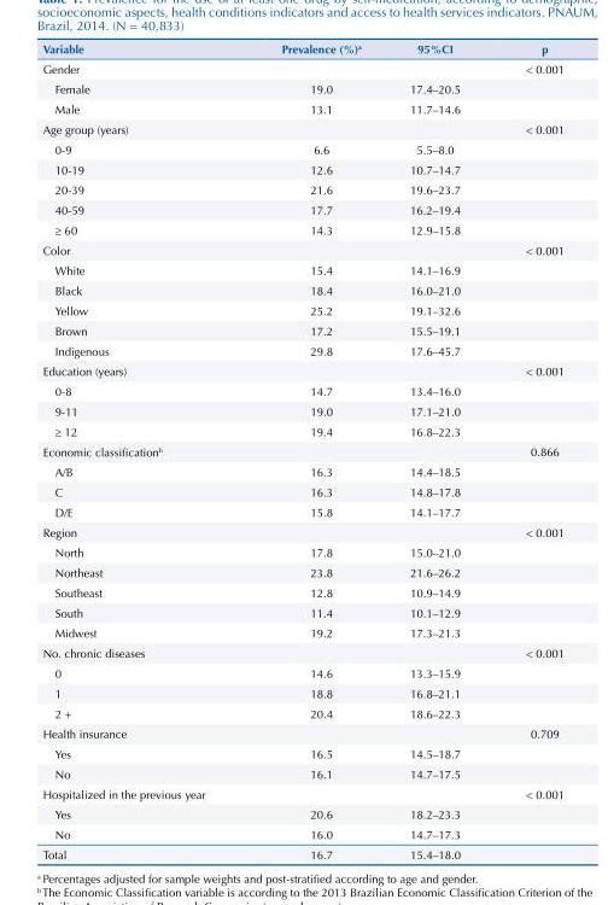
<table><thead><tr><td>Variable</td><td>Prevalence (%)<sup>a</sup></td><td>95%CI</td><td>p</td></tr></thead><tbody><tr><td>Gender</td><td></td><td></td><td>&lt; 0.001</td></tr><tr><td>Female</td><td>19.0</td><td>17.4–20.5</td><td></td></tr><tr><td>Male</td><td>13.1</td><td>11.7–14.6</td><td></td></tr><tr><td>Age group (years)</td><td></td><td></td><td>&lt; 0.001</td></tr><tr><td>0-9</td><td>6.6</td><td>5.5–8.0</td><td></td></tr><tr><td>10-19</td><td>12.6</td><td>10.7–14.7</td><td></td></tr><tr><td>20-39</td><td>21.6</td><td>19.6–23.7</td><td></td></tr><tr><td>40-59</td><td>17.7</td><td>16.2–19.4</td><td></td></tr><tr><td>≥ 60</td><td>14.3</td><td>12.9–15.8</td><td></td></tr><tr><td>Color</td><td></td><td></td><td>&lt; 0.001</td></tr><tr><td>White</td><td>15.4</td><td>14.1–16.9</td><td></td></tr><tr><td>Black</td><td>18.4</td><td>16.0–21.0</td><td></td></tr><tr><td>Yellow</td><td>25.2</td><td>19.1–32.6</td><td></td></tr><tr><td>Brown</td><td>17.2</td><td>15.5–19.1</td><td></td></tr><tr><td>Indigenous</td><td>29.8</td><td>17.6–45.7</td><td></td></tr><tr><td>Education (years)</td><td></td><td></td><td>&lt; 0.001</td></tr><tr><td>0-8</td><td>14.7</td><td>13.4–16.0</td><td></td></tr><tr><td>9-11</td><td>19.0</td><td>17.1–21.0</td><td></td></tr><tr><td>≥ 12</td><td>19.4</td><td>16.8–22.3</td><td></td></tr><tr><td>Economic classification<sup>b</sup></td><td></td><td></td><td>0.866</td></tr><tr><td>A/B</td><td>16.3</td><td>14.4–18.5</td><td></td></tr><tr><td>C</td><td>16.3</td><td>14.8–17.8</td><td></td></tr><tr><td>D/E</td><td>15.8</td><td>14.1–17.7</td><td></td></tr><tr><td>Region</td><td></td><td></td><td>&lt; 0.001</td></tr><tr><td>North</td><td>17.8</td><td>15.0–21.0</td><td></td></tr><tr><td>Northeast</td><td>23.8</td><td>21.6–26.2</td><td></td></tr><tr><td>Southeast</td><td>12.8</td><td>10.9–14.9</td><td></td></tr><tr><td>South</td><td>11.4</td><td>10.1–12.9</td><td></td></tr><tr><td>Midwest</td><td>19.2</td><td>17.3–21.3</td><td></td></tr><tr><td>No. chronic diseases</td><td></td><td></td><td>&lt; 0.001</td></tr><tr><td>0</td><td>14.6</td><td>13.3–15.9</td><td></td></tr><tr><td>1</td><td>18.8</td><td>16.8–21.1</td><td></td></tr><tr><td>2 +</td><td>20.4</td><td>18.6–22.3</td><td></td></tr><tr><td>Health insurance</td><td></td><td></td><td>0.709</td></tr><tr><td>Yes</td><td>16.5</td><td>14.5–18.7</td><td></td></tr><tr><td>No</td><td>16.1</td><td>14.7–17.5</td><td></td></tr><tr><td>Hospitalized in the previous year</td><td></td><td></td><td>&lt; 0.001</td></tr><tr><td>Yes</td><td>20.6</td><td>18.2–23.3</td><td></td></tr><tr><td>No</td><td>16.0</td><td>14.7–17.3</td><td></td></tr><tr><td>Total</td><td>16.7</td><td>15.4–18.0</td><td></td></tr></tbody></table>